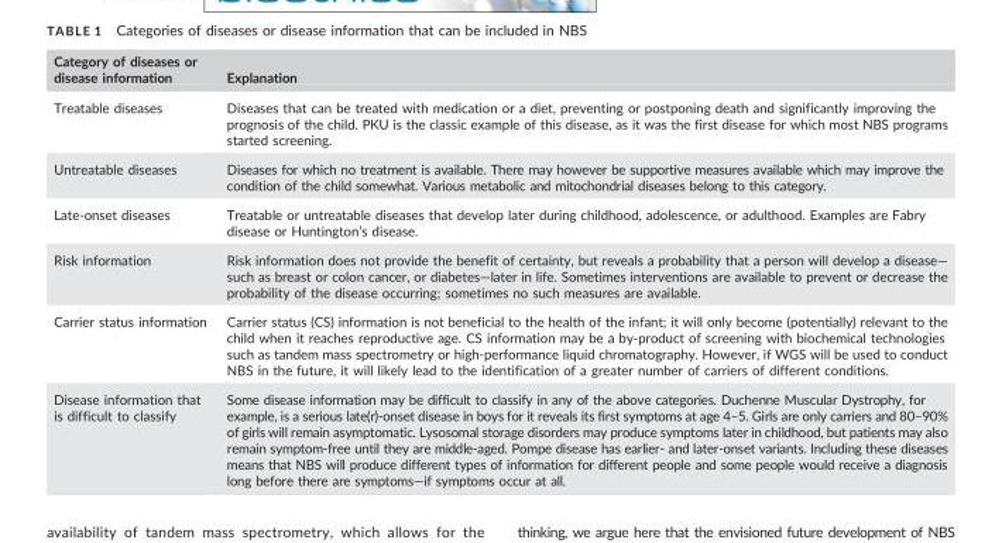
<table><thead><tr><td>Category of diseases or disease information</td><td>Explanation</td></tr></thead><tbody><tr><td>Treatable diseases</td><td>Diseases that can be treated with medication or a diet, preventing or postponing death and significantly improving the prognosis of the child. PKU is the classic example of this disease, as it was the first disease for which most NBS programs started screening.</td></tr><tr><td>Untreatable diseases</td><td>Diseases for which no treatment is available. There may however be supportive measures available which may improve the condition of the child somewhat. Various metabolic and mitochondrial diseases belong to this category.</td></tr><tr><td>Late-onset diseases</td><td>Treatable or untreatable diseases that develop later during childhood, adolescence, or adulthood. Examples are Fabry disease or Huntington’s disease.</td></tr><tr><td>Risk information</td><td>Risk information does not provide the benefit of certainty, but reveals a probability that a person will develop a disease— such as breast or colon cancer, or diabetes—later in life. Sometimes interventions are available to prevent or decrease the probability of the disease occurring; sometimes no such measures are available.</td></tr><tr><td>Carrier status information</td><td>Carrier status (CS) information is not beneficial to the health of the infant; it will only become (potentially) relevant to the child when it reaches reproductive age. CS information may be a by-product of screening with biochemical technologies such as tandem mass spectrometry or high-performance liquid chromatography. However, if WGS will be used to conduct NBS in the future, it will likely lead to the identification of a greater number of carriers of different conditions.</td></tr><tr><td>Disease information that is difficult to classify</td><td>Some disease information may be difficult to classify in any of the above categories. Duchenne Muscular Dystrophy, for example, is a serious late(r)-onset disease in boys for it reveals its first symptoms at age 4–5. Girls are only carriers and 80–90% of girls will remain asymptomatic. Lysosomal storage disorders may produce symptoms later in childhood, but patients may also remain symptom-free until they are middle-aged. Pompe disease has earlier- and later-onset variants. Including these diseases means that NBS will produce different types of information for different people and some people would receive a diagnosis long before there are symptoms—if symptoms occur at all.</td></tr></tbody></table>